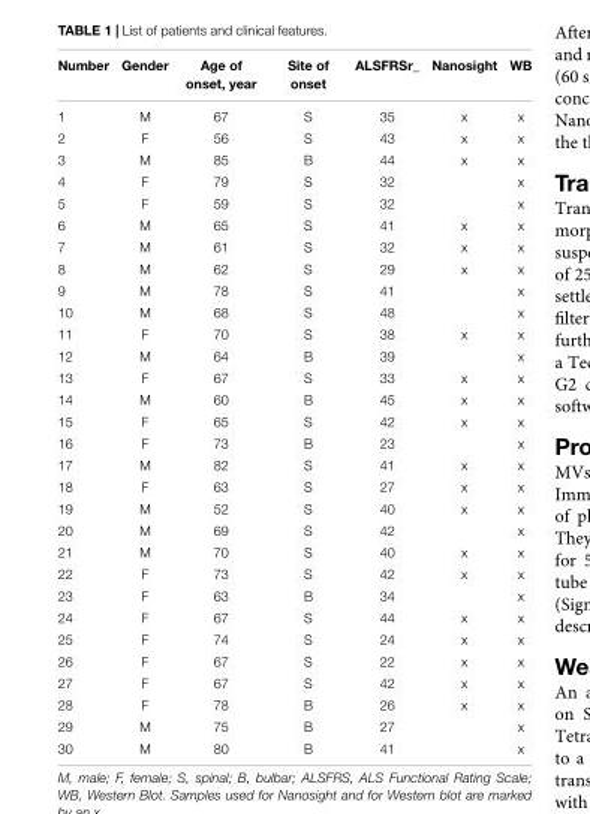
<table><thead><tr><td>Number</td><td>Gender</td><td>Age of onset, year</td><td>Site of onset</td><td>ALSFRSr_</td><td>Nanosight</td><td>WB</td></tr></thead><tbody><tr><td>1</td><td>M</td><td>67</td><td>S</td><td>35</td><td>x</td><td>x</td></tr><tr><td>2</td><td>F</td><td>56</td><td>S</td><td>43</td><td>x</td><td>x</td></tr><tr><td>3</td><td>M</td><td>85</td><td>B</td><td>44</td><td>x</td><td>x</td></tr><tr><td>4</td><td>F</td><td>79</td><td>S</td><td>32</td><td></td><td>x</td></tr><tr><td>5</td><td>F</td><td>59</td><td>S</td><td>32</td><td></td><td>x</td></tr><tr><td>6</td><td>M</td><td>65</td><td>S</td><td>41</td><td>x</td><td>x</td></tr><tr><td>7</td><td>M</td><td>61</td><td>S</td><td>32</td><td>x</td><td>x</td></tr><tr><td>8</td><td>M</td><td>62</td><td>S</td><td>29</td><td>x</td><td>x</td></tr><tr><td>9</td><td>M</td><td>78</td><td>S</td><td>41</td><td></td><td>x</td></tr><tr><td>10</td><td>M</td><td>68</td><td>S</td><td>48</td><td></td><td>x</td></tr><tr><td>11</td><td>F</td><td>70</td><td>S</td><td>38</td><td>x</td><td>x</td></tr><tr><td>12</td><td>M</td><td>64</td><td>B</td><td>39</td><td></td><td>x</td></tr><tr><td>13</td><td>F</td><td>67</td><td>S</td><td>33</td><td>x</td><td>x</td></tr><tr><td>14</td><td>M</td><td>60</td><td>B</td><td>45</td><td>x</td><td>x</td></tr><tr><td>15</td><td>F</td><td>65</td><td>S</td><td>42</td><td>x</td><td>x</td></tr><tr><td>16</td><td>F</td><td>73</td><td>B</td><td>23</td><td></td><td>x</td></tr><tr><td>17</td><td>M</td><td>82</td><td>S</td><td>41</td><td>x</td><td>x</td></tr><tr><td>18</td><td>F</td><td>63</td><td>S</td><td>27</td><td>x</td><td>x</td></tr><tr><td>19</td><td>M</td><td>52</td><td>S</td><td>40</td><td>x</td><td>x</td></tr><tr><td>20</td><td>M</td><td>69</td><td>S</td><td>42</td><td></td><td>x</td></tr><tr><td>21</td><td>M</td><td>70</td><td>S</td><td>40</td><td>x</td><td>x</td></tr><tr><td>22</td><td>F</td><td>73</td><td>S</td><td>42</td><td>x</td><td>x</td></tr><tr><td>23</td><td>F</td><td>63</td><td>B</td><td>34</td><td></td><td>x</td></tr><tr><td>24</td><td>F</td><td>67</td><td>S</td><td>44</td><td>x</td><td>x</td></tr><tr><td>25</td><td>F</td><td>74</td><td>S</td><td>24</td><td>x</td><td>x</td></tr><tr><td>26</td><td>F</td><td>67</td><td>S</td><td>22</td><td>x</td><td>x</td></tr><tr><td>27</td><td>F</td><td>67</td><td>S</td><td>42</td><td>x</td><td>x</td></tr><tr><td>28</td><td>F</td><td>78</td><td>B</td><td>26</td><td>x</td><td>x</td></tr><tr><td>29</td><td>M</td><td>75</td><td>B</td><td>27</td><td></td><td>x</td></tr><tr><td>30</td><td>M</td><td>80</td><td>B</td><td>41</td><td></td><td>x</td></tr></tbody></table>